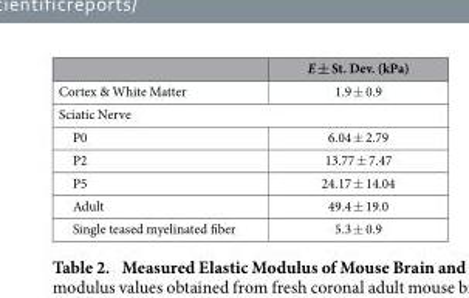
<table><thead><tr><td></td><td>E ± St. Dev. (kPa)</td></tr></thead><tbody><tr><td>Cortex &amp; White Matter</td><td>1.9 ± 0.9</td></tr><tr><td colspan="2">Sciatic Nerve</td></tr><tr><td>P0</td><td>6.04 ± 2.79</td></tr><tr><td>P2</td><td>13.77 ± 7.47</td></tr><tr><td>P5</td><td>24.17 ± 14.04</td></tr><tr><td>Adult</td><td>49.4 ± 19.0</td></tr><tr><td>Single teased myelinated fiber</td><td>5.3 ± 0.9</td></tr></tbody></table>